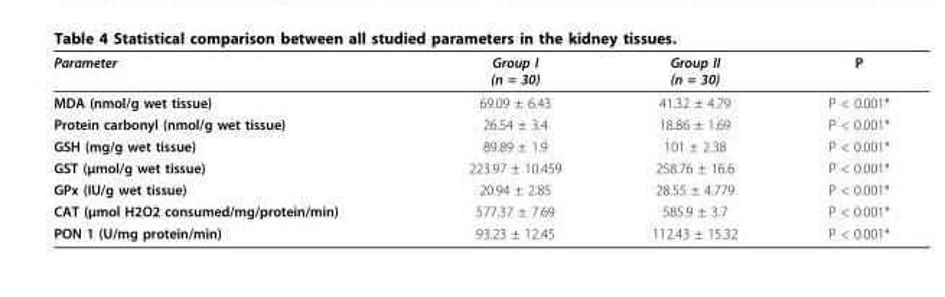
<table><thead><tr><td>Parameter</td><td>Group I (n = 30)</td><td>Group II (n = 30)</td><td>P</td></tr></thead><tbody><tr><td>MDA (nmol/g wet tissue)</td><td>69.09 ± 6.43</td><td>41.32 ± 4.79</td><td>P &lt; 0.001*</td></tr><tr><td>Protein carbonyl (nmol/g wet tissue)</td><td>26.54 ± 3.4</td><td>18.86 ± 1.69</td><td>P &lt; 0.001*</td></tr><tr><td>GSH (mg/g wet tissue)</td><td>89.89 ± 1.9</td><td>101 ± 2.38</td><td>P &lt; 0.001*</td></tr><tr><td>GST (μmol/g wet tissue)</td><td>223.97 ± 10.459</td><td>258.76 ± 16.6</td><td>P &lt; 0.001*</td></tr><tr><td>GPx (IU/g wet tissue)</td><td>20.94 ± 2.85</td><td>28.55 ± 4.779</td><td>P &lt; 0.001*</td></tr><tr><td>CAT (μmol H2O2 consumed/mg/protein/min)</td><td>577.37 ± 7.69</td><td>585.9 ± 3.7</td><td>P &lt; 0.001*</td></tr><tr><td>PON 1 (U/mg protein/min)</td><td>93.23 ± 12.45</td><td>112.43 ± 15.32</td><td>P &lt; 0.001*</td></tr></tbody></table>